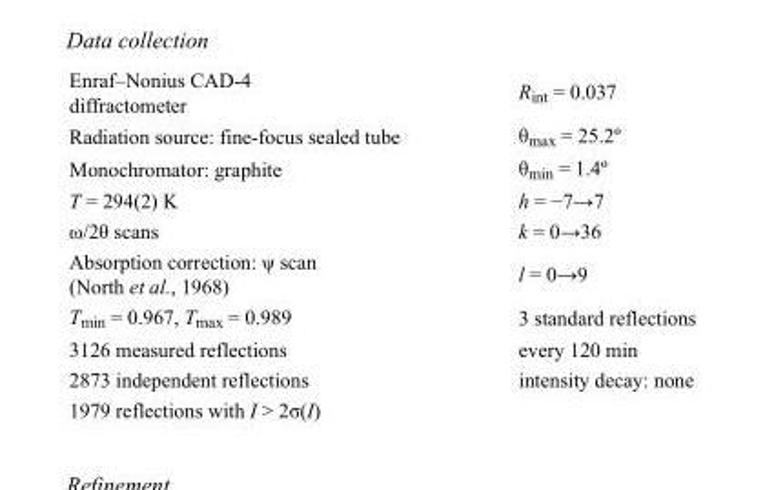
<table><tbody><tr><td>Enraf–Nonius CAD-4 diffractometer</td><td>R<sub>int</sub> = 0.037</td></tr><tr><td>Radiation source: fine-focus sealed tube</td><td>θ<sub>max</sub> = 25.2º</td></tr><tr><td>Monochromator: graphite</td><td>θ<sub>min</sub> = 1.4º</td></tr><tr><td>T = 294(2) K</td><td>h = −7→7</td></tr><tr><td>ω/2θ scans</td><td>k = 0→36</td></tr><tr><td>Absorption correction: ψ scan (North et al., 1968)</td><td>l = 0→9</td></tr><tr><td>T<sub>min</sub> = 0.967, T<sub>max</sub> = 0.989</td><td>3 standard reflections</td></tr><tr><td>3126 measured reflections</td><td>every 120 min</td></tr><tr><td>2873 independent reflections</td><td>intensity decay: none</td></tr><tr><td>1979 reflections with I &gt; 2σ(I)</td><td></td></tr></tbody></table>